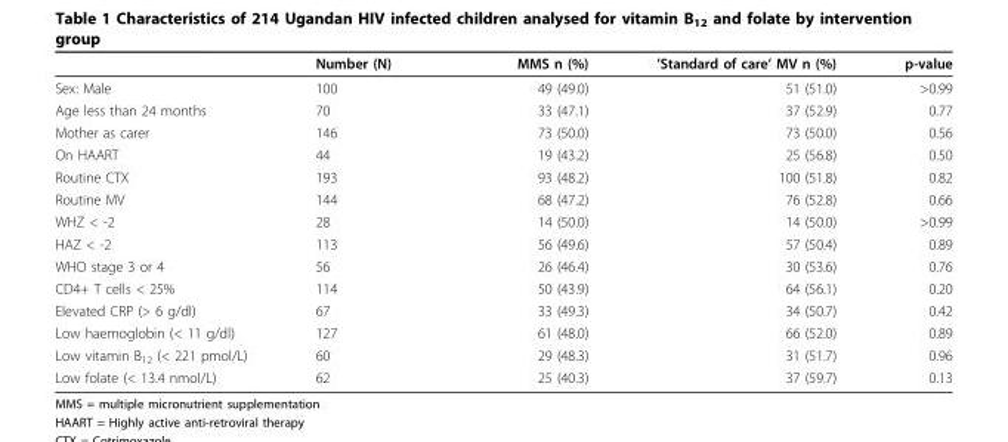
<table><thead><tr><td></td><td>Number (N)</td><td>MMS n (%)</td><td>’Standard of care’ MV n (%)</td><td>p-value</td></tr></thead><tbody><tr><td>Sex: Male</td><td>100</td><td>49 (49.0)</td><td>51 (51.0)</td><td>&gt;0.99</td></tr><tr><td>Age less than 24 months</td><td>70</td><td>33 (47.1)</td><td>37 (52.9)</td><td>0.77</td></tr><tr><td>Mother as carer</td><td>146</td><td>73 (50.0)</td><td>73 (50.0)</td><td>0.56</td></tr><tr><td>On HAART</td><td>44</td><td>19 (43.2)</td><td>25 (56.8)</td><td>0.50</td></tr><tr><td>Routine CTX</td><td>193</td><td>93 (48.2)</td><td>100 (51.8)</td><td>0.82</td></tr><tr><td>Routine MV</td><td>144</td><td>68 (47.2)</td><td>76 (52.8)</td><td>0.66</td></tr><tr><td>WHZ &lt; -2</td><td>28</td><td>14 (50.0)</td><td>14 (50.0)</td><td>&gt;0.99</td></tr><tr><td>HAZ &lt; -2</td><td>113</td><td>56 (49.6)</td><td>57 (50.4)</td><td>0.89</td></tr><tr><td>WHO stage 3 or 4</td><td>56</td><td>26 (46.4)</td><td>30 (53.6)</td><td>0.76</td></tr><tr><td>CD4+ T cells &lt; 25%</td><td>114</td><td>50 (43.9)</td><td>64 (56.1)</td><td>0.20</td></tr><tr><td>Elevated CRP (&gt; 6 g/dl)</td><td>67</td><td>33 (49.3)</td><td>34 (50.7)</td><td>0.42</td></tr><tr><td>Low haemoglobin (&lt; 11 g/dl)</td><td>127</td><td>61 (48.0)</td><td>66 (52.0)</td><td>0.89</td></tr><tr><td>Low vitamin B<sub>12</sub> (&lt; 221 pmol/L)</td><td>60</td><td>29 (48.3)</td><td>31 (51.7)</td><td>0.96</td></tr><tr><td>Low folate (&lt; 13.4 nmol/L)</td><td>62</td><td>25 (40.3)</td><td>37 (59.7)</td><td>0.13</td></tr></tbody></table>